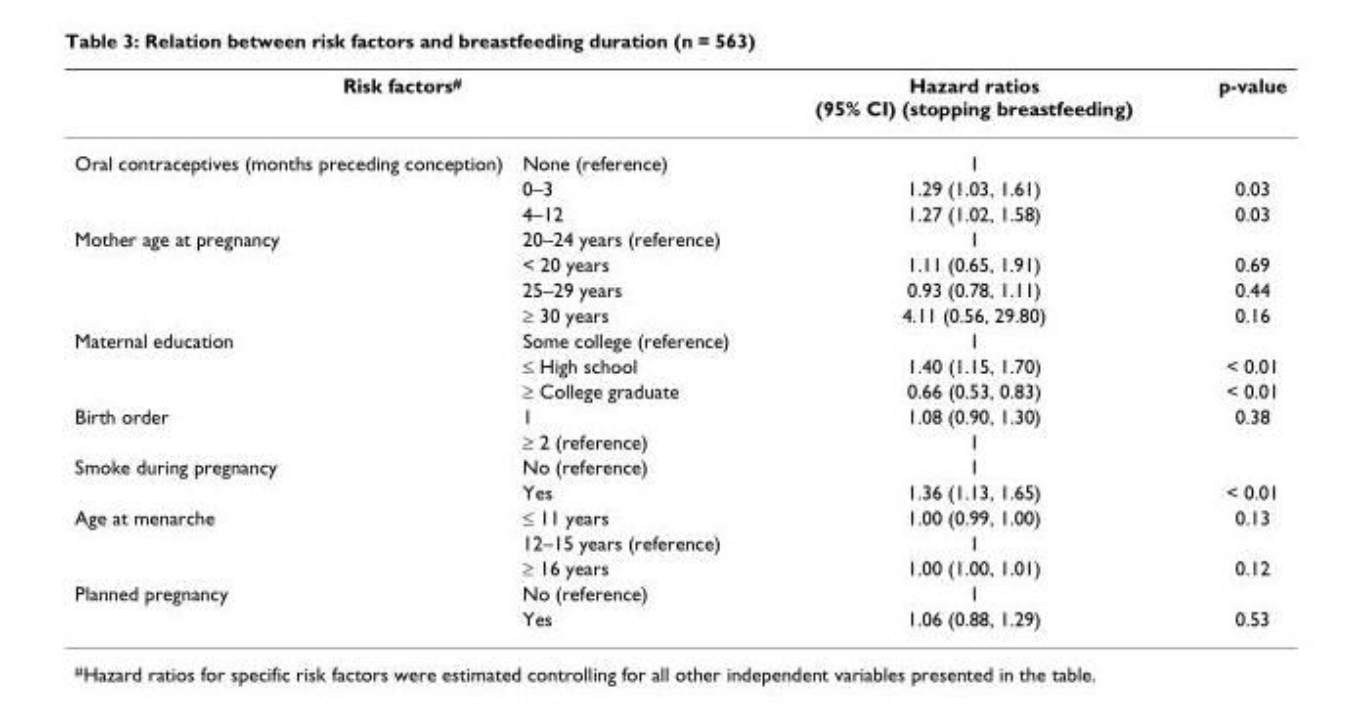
<table><thead><tr><td colspan="2">Risk factors<sup>#</sup></td><td rowspan="2">Hazard ratios (95% CI) (stopping breastfeeding) 1</td><td rowspan="2">p-value</td></tr><tr><td>Oral contraceptives (months preceding conception)</td><td>None (reference)</td></tr></thead><tbody><tr><td></td><td>0–3</td><td>1.29 (1.03, 1.61)</td><td>0.03</td></tr><tr><td></td><td>4–12</td><td>1.27 (1.02, 1.58)</td><td>0.03</td></tr><tr><td rowspan="4">Mother age at pregnancy</td><td>20–24 years (reference)</td><td>1</td><td></td></tr><tr><td>&lt; 20 years</td><td>1.11 (0.65, 1.91)</td><td>0.69</td></tr><tr><td>25–29 years</td><td>0.93 (0.78, 1.11)</td><td>0.44</td></tr><tr><td>≥ 30 years</td><td>4.11 (0.56, 29.80)</td><td>0.16</td></tr><tr><td rowspan="3">Maternal education</td><td>Some college (reference)</td><td>1</td><td></td></tr><tr><td>≤ High school</td><td>1.40 (1.15, 1.70)</td><td>&lt; 0.01</td></tr><tr><td>≥ College graduate</td><td>0.66 (0.53, 0.83)</td><td>&lt; 0.01</td></tr><tr><td rowspan="2">Birth order</td><td>1</td><td>1.08 (0.90, 1.30)</td><td>0.38</td></tr><tr><td>≥ 2 (reference)</td><td>1</td><td></td></tr><tr><td rowspan="2">Smoke during pregnancy</td><td>No (reference)</td><td>1</td><td></td></tr><tr><td>Yes</td><td>1.36 (1.13, 1.65)</td><td>&lt; 0.01</td></tr><tr><td rowspan="3">Age at menarche</td><td>≤ 11 years</td><td>1.00 (0.99, 1.00)</td><td>0.13</td></tr><tr><td>12–15 years (reference)</td><td>1</td><td></td></tr><tr><td>≥ 16 years</td><td>1.00 (1.00, 1.01)</td><td>0.12</td></tr><tr><td rowspan="2">Planned pregnancy</td><td>No (reference)</td><td>1</td><td></td></tr><tr><td>Yes</td><td>1.06 (0.88, 1.29)</td><td>0.53</td></tr></tbody></table>